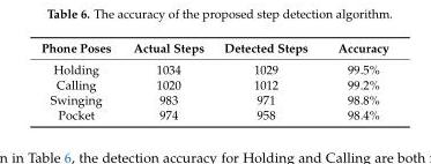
<table><thead><tr><td>Phone Poses</td><td>Actual Steps</td><td>Detected Steps</td><td>Accuracy</td></tr></thead><tbody><tr><td>Holding</td><td>1034</td><td>1029</td><td>99.5%</td></tr><tr><td>Calling</td><td>1020</td><td>1012</td><td>99.2%</td></tr><tr><td>Swinging REVIEW</td><td>983</td><td>971</td><td>98.8%</td></tr><tr><td>Pocket</td><td>974</td><td>958</td><td>98.4%</td></tr></tbody></table>